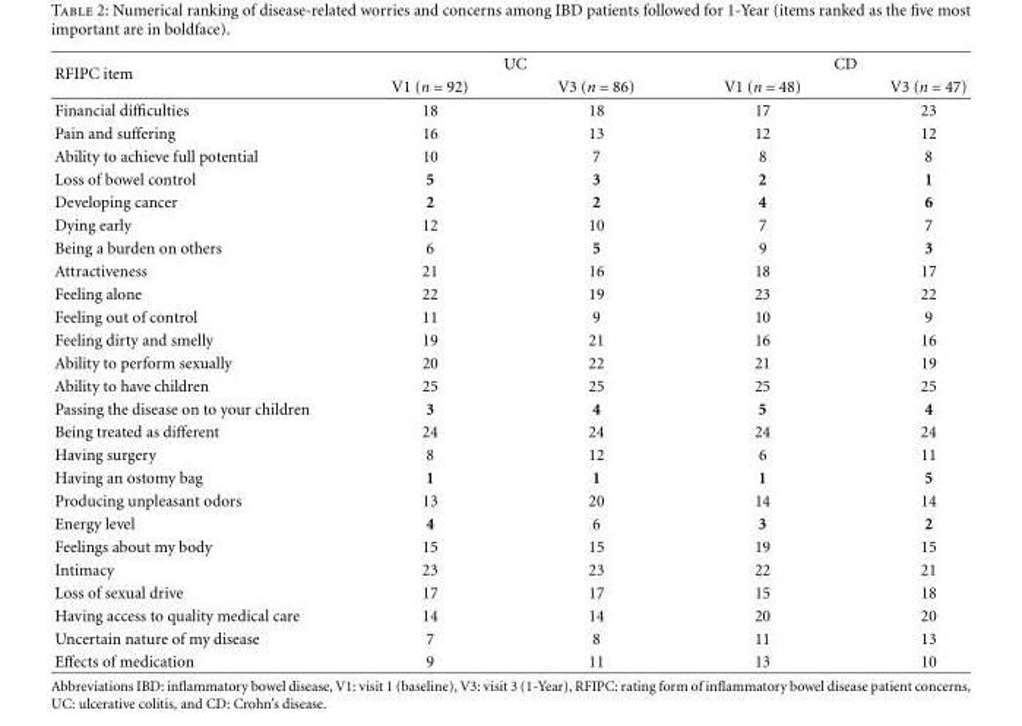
<table><thead><tr><td rowspan="2">RFIPC item</td><td colspan="2">UC</td><td colspan="2">CD</td></tr><tr><td>V1 (n = 92)</td><td>V3 (n = 86)</td><td>V1 (n = 48)</td><td>V3 (n = 47)</td></tr></thead><tbody><tr><td>Financial difficulties</td><td>18</td><td>18</td><td>17</td><td>23</td></tr><tr><td>Pain and suffering</td><td>16</td><td>13</td><td>12</td><td>12</td></tr><tr><td>Ability to achieve full potential</td><td>10</td><td>7</td><td>8</td><td>8</td></tr><tr><td>Loss of bowel control</td><td>5</td><td>3</td><td>2</td><td>1</td></tr><tr><td>Developing cancer</td><td>2</td><td>2</td><td>4</td><td>6</td></tr><tr><td>Dying early</td><td>12</td><td>10</td><td>7</td><td>7</td></tr><tr><td>Being a burden on others</td><td>6</td><td>5</td><td>9</td><td>3</td></tr><tr><td>Attractiveness</td><td>21</td><td>16</td><td>18</td><td>17</td></tr><tr><td>Feeling alone</td><td>22</td><td>19</td><td>23</td><td>22</td></tr><tr><td>Feeling out of control</td><td>11</td><td>9</td><td>10</td><td>9</td></tr><tr><td>Feeling dirty and smelly</td><td>19</td><td>21</td><td>16</td><td>16</td></tr><tr><td>Ability to perform sexually</td><td>20</td><td>22</td><td>21</td><td>19</td></tr><tr><td>Ability to have children</td><td>25</td><td>25</td><td>25</td><td>25</td></tr><tr><td>Passing the disease on to your children</td><td>3</td><td>4</td><td>5</td><td>4</td></tr><tr><td>Being treated as different</td><td>24</td><td>24</td><td>24</td><td>24</td></tr><tr><td>Having surgery</td><td>8</td><td>12</td><td>6</td><td>11</td></tr><tr><td>Having an ostomy bag</td><td>1</td><td>1</td><td>1</td><td>5</td></tr><tr><td>Producing unpleasant odors</td><td>13</td><td>20</td><td>14</td><td>14</td></tr><tr><td>Energy level</td><td>4</td><td>6</td><td>3</td><td>2</td></tr><tr><td>Feelings about my body</td><td>15</td><td>15</td><td>19</td><td>15</td></tr><tr><td>Intimacy</td><td>23</td><td>23</td><td>22</td><td>21</td></tr><tr><td>Loss of sexual drive</td><td>17</td><td>17</td><td>15</td><td>18</td></tr><tr><td>Having access to quality medical care</td><td>14</td><td>14</td><td>20</td><td>20</td></tr><tr><td>Uncertain nature of my disease</td><td>7</td><td>8</td><td>11</td><td>13</td></tr><tr><td>Effects of medication</td><td>9</td><td>11</td><td>13</td><td>10</td></tr></tbody></table>